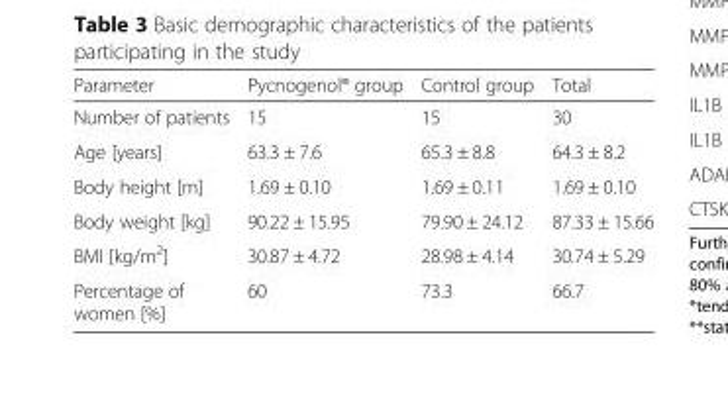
<table><thead><tr><td>Parameter</td><td>Pycnogenol® group</td><td>Control group</td><td>Total</td></tr></thead><tbody><tr><td>Number of patients</td><td>15</td><td>15</td><td>30</td></tr><tr><td>Age [years]</td><td>63.3 ± 7.6</td><td>65.3 ± 8.8</td><td>64.3 ± 8.2</td></tr><tr><td>Body height [m]</td><td>1.69 ± 0.10</td><td>1.69 ± 0.11</td><td>1.69 ± 0.10</td></tr><tr><td>Body weight [kg]</td><td>90.22 ± 15.95</td><td>79.90 ± 24.12</td><td>87.33 ± 15.66</td></tr><tr><td>BMI [kg/m<sup>2</sup>]</td><td>30.87 ± 4.72</td><td>28.98 ± 4.14</td><td>30.74 ± 5.29</td></tr><tr><td>Percentage of women [%]</td><td>60</td><td>73.3</td><td>66.7</td></tr></tbody></table>